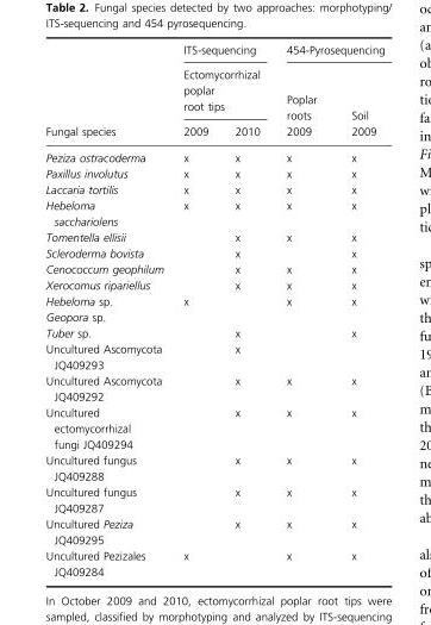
<table><thead><tr><td rowspan="3">Fungal species</td><td rowspan="2" colspan="2">ITS-sequencing Ectomycorrhizal poplar root tips</td><td colspan="2">454-Pyrosequencing</td></tr><tr><td rowspan="2">Poplar roots 2009</td><td rowspan="2">Soil 2009</td></tr><tr><td>2009</td><td>2010</td></tr></thead><tbody><tr><td>Peziza ostracoderma</td><td>x</td><td>x</td><td>x</td><td>x</td></tr><tr><td>Paxillus involutus</td><td>x</td><td>x</td><td>x</td><td>x</td></tr><tr><td>Laccaria tortilis</td><td>x</td><td>x</td><td>x</td><td>x</td></tr><tr><td>Hebeloma sacchariolens</td><td>x</td><td>x</td><td>x</td><td>x</td></tr><tr><td>Tomentella ellisii</td><td></td><td>x</td><td>x</td><td>x</td></tr><tr><td>Scleroderma bovista</td><td></td><td>x</td><td></td><td>x</td></tr><tr><td>Cenococcum geophilum</td><td></td><td>x</td><td>x</td><td>x</td></tr><tr><td>Xerocomus ripariellus</td><td></td><td>x</td><td>x</td><td>x</td></tr><tr><td>Hebeloma sp.</td><td>x</td><td></td><td>x</td><td>x</td></tr><tr><td colspan="5">Geopora sp.</td></tr><tr><td>Tuber sp.</td><td></td><td>x</td><td></td><td>x</td></tr><tr><td>Uncultured Ascomycota JQ409293</td><td></td><td>x</td><td></td><td></td></tr><tr><td>Uncultured Ascomycota JQ409292</td><td></td><td>x</td><td>x</td><td>x</td></tr><tr><td>Uncultured ectomycorrhizal fungi JQ409294</td><td></td><td>x</td><td>x</td><td>x</td></tr><tr><td>Uncultured fungus JQ409288</td><td></td><td>x</td><td>x</td><td>x</td></tr><tr><td>Uncultured fungus JQ409287</td><td></td><td>x</td><td>x</td><td>x</td></tr><tr><td>Uncultured Peziza JQ409295</td><td></td><td>x</td><td>x</td><td>x</td></tr><tr><td>Uncultured Pezizales JQ409284</td><td>x</td><td></td><td>x</td><td>x</td></tr></tbody></table>